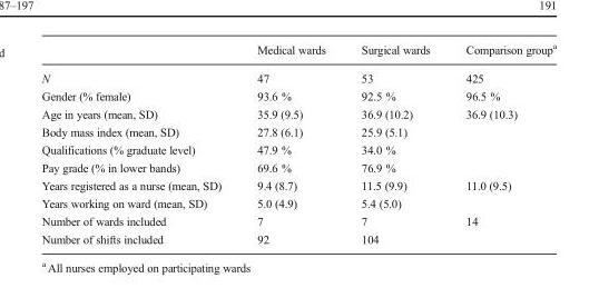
<table><thead><tr><td></td><td>Medical wards</td><td>Surgical wards</td><td>Comparison group<sup>a</sup></td></tr></thead><tbody><tr><td>N</td><td>47</td><td>53</td><td>425</td></tr><tr><td>Gender (% female)</td><td>93.6 %</td><td>92.5 %</td><td>96.5 %</td></tr><tr><td>Age in years (mean, SD)</td><td>35.9 (9.5)</td><td>36.9 (10.2)</td><td>36.9 (10.3)</td></tr><tr><td>Body mass index (mean, SD)</td><td>27.8 (6.1)</td><td>25.9 (5.1)</td><td></td></tr><tr><td>Qualifications (% graduate level)</td><td>47.9 %</td><td>34.0 %</td><td></td></tr><tr><td>Pay grade (% in lower bands)</td><td>69.6 %</td><td>76.9 %</td><td></td></tr><tr><td>Years registered as a nurse (mean, SD)</td><td>9.4 (8.7)</td><td>11.5 (9.9)</td><td>11.0 (9.5)</td></tr><tr><td>Years working on ward (mean, SD)</td><td>5.0 (4.9)</td><td>5.4 (5.0)</td><td></td></tr><tr><td>Number of wards included</td><td>7</td><td>7</td><td>14</td></tr><tr><td>Number of shifts included</td><td>92</td><td>104</td><td></td></tr></tbody></table>